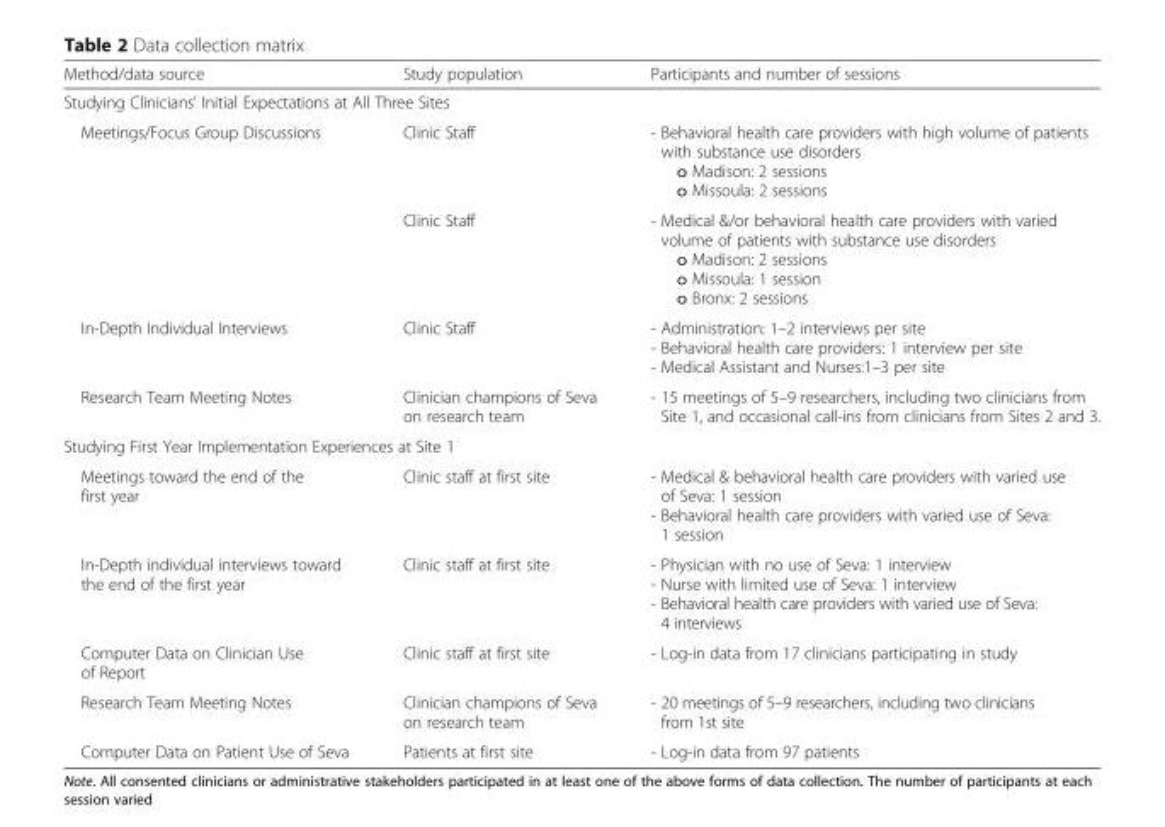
<table><thead><tr><td>Method/data source</td><td>Study population</td><td>Participants and number of sessions</td></tr></thead><tbody><tr><td colspan="3">Studying Clinicians’ Initial Expectations at All Three Sites</td></tr><tr><td rowspan="2">Meetings/Focus Group Discussions</td><td>Clinic Staff</td><td>- Behavioral health care providers with high volume of patients with substance use disorders o Madison: 2 sessions o Missoula: 2 sessions</td></tr><tr><td>Clinic Staff</td><td>- Medical &amp;/or behavioral health care providers with varied volume of patients with substance use disorders o Madison: 2 sessions o Missoula: 1 session o Bronx: 2 sessions</td></tr><tr><td>In-Depth Individual Interviews</td><td>Clinic Staff</td><td>- Administration: 1–2 interviews per site - Behavioral health care providers: 1 interview per site - Medical Assistant and Nurses:1–3 per site</td></tr><tr><td>Research Team Meeting Notes</td><td>Clinician champions of Seva on research team</td><td>- 15 meetings of 5–9 researchers, including two clinicians from Site 1, and occasional call-ins from clinicians from Sites 2 and 3.</td></tr><tr><td colspan="3">Studying First Year Implementation Experiences at Site 1</td></tr><tr><td>Meetings toward the end of the first year</td><td>Clinic staff at first site</td><td>- Medical &amp; behavioral health care providers with varied use of Seva: 1 session - Behavioral health care providers with varied use of Seva: 1 session</td></tr><tr><td>In-Depth individual interviews toward the end of the first year</td><td>Clinic staff at first site</td><td>- Physician with no use of Seva: 1 interview - Nurse with limited use of Seva: 1 interview - Behavioral health care providers with varied use of Seva: 4 interviews</td></tr><tr><td>Computer Data on Clinician Use of Report</td><td>Clinic staff at first site</td><td>- Log-in data from 17 clinicians participating in study</td></tr><tr><td>Research Team Meeting Notes</td><td>Clinician champions of Seva on research team</td><td>- 20 meetings of 5–9 researchers, including two clinicians from 1st site</td></tr><tr><td>Computer Data on Patient Use of Seva</td><td>Patients at first site</td><td>- Log-in data from 97 patients</td></tr></tbody></table>